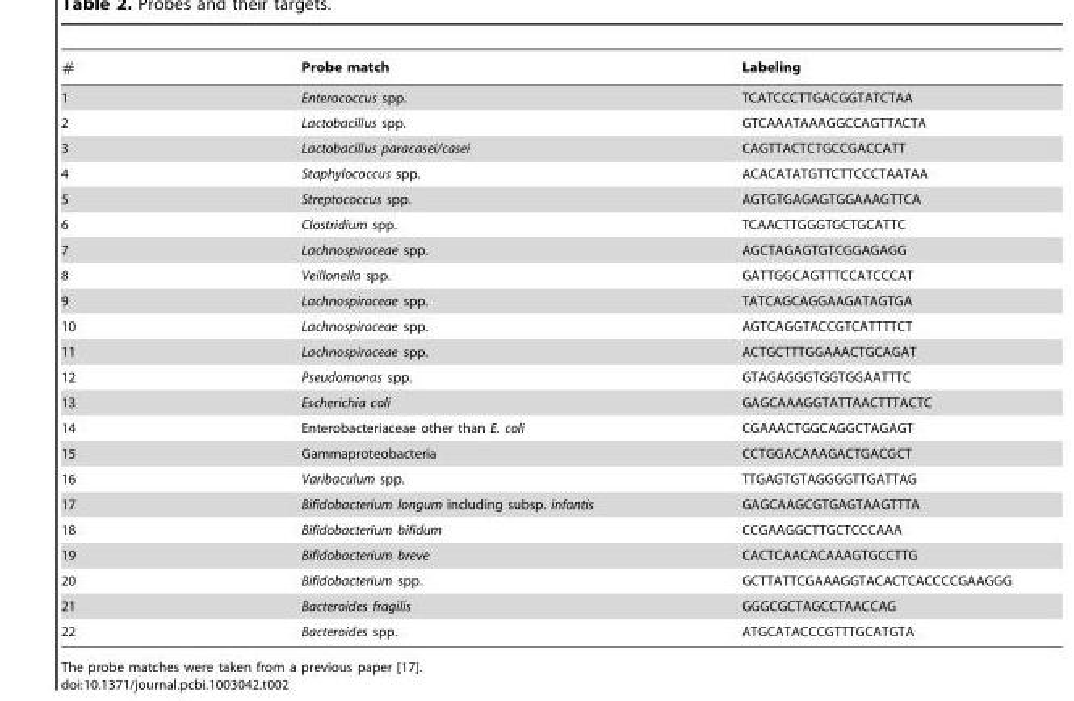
<table><thead><tr><td>#</td><td>Probe match</td><td>Labeling</td></tr></thead><tbody><tr><td>1</td><td>Enterococcus spp.</td><td>TCATCCCTTGACGGTATCTAA</td></tr><tr><td>2</td><td>Lactobacillus spp.</td><td>GTCAAATAAAGGCCAGTTACTA</td></tr><tr><td>3</td><td>Lactobacillus paracasei/casei</td><td>CAGTTACTCTGCCGACCATT</td></tr><tr><td>4</td><td>Staphylococcus spp.</td><td>ACACATATGTTCTTCCCTAATAA</td></tr><tr><td>5</td><td>Streptococcus spp.</td><td>AGTGTGAGAGTGGAAAGTTCA</td></tr><tr><td>6</td><td>Clostridium spp.</td><td>TCAACTTGGGTGCTGCATTC</td></tr><tr><td>7</td><td>Lachnospiraceae spp.</td><td>AGCTAGAGTGTCGGAGAGG</td></tr><tr><td>8</td><td>Veillonella spp.</td><td>GATTGGCAGTTTCCATCCCAT</td></tr><tr><td>9</td><td>Lachnospiraceae spp.</td><td>TATCAGCAGGAAGATAGTGA</td></tr><tr><td>10</td><td>Lachnospiraceae spp.</td><td>AGTCAGGTACCGTCATTTTCT</td></tr><tr><td>11</td><td>Lachnospiraceae spp.</td><td>ACTGCTTTGGAAACTGCAGAT</td></tr><tr><td>12</td><td>Pseudomonas spp.</td><td>GTAGAGGGTGGTGGAATTTC</td></tr><tr><td>13</td><td>Escherichia coli</td><td>GAGCAAAGGTATTAACTTTACTC</td></tr><tr><td>14</td><td>Enterobacteriaceae other than E. coli</td><td>CGAAACTGGCAGGCTAGAGT</td></tr><tr><td>15</td><td>Gammaproteobacteria</td><td>CCTGGACAAAGACTGACGCT</td></tr><tr><td>16</td><td>Varibaculum spp.</td><td>TTGAGTGTAGGGGTTGATTAG</td></tr><tr><td>17</td><td>Bifidobacterium longum including subsp. infantis</td><td>GAGCAAGCGTGAGTAAGTTTA</td></tr><tr><td>18</td><td>Bifidobacterium bifidum</td><td>CCGAAGGCTTGCTCCCAAA</td></tr><tr><td>19</td><td>Bifidobacterium breve</td><td>CACTCAACACAAAGTGCCTTG</td></tr><tr><td>20</td><td>Bifidobacterium spp.</td><td>GCTTATTCGAAAGGTACACTCACCCCGAAGGG</td></tr><tr><td>21</td><td>Bacteroides fragilis</td><td>GGGCGCTAGCCTAACCAG</td></tr><tr><td>22</td><td>Bacteroides spp.</td><td>ATGCATACCCGTTTGCATGTA</td></tr></tbody></table>